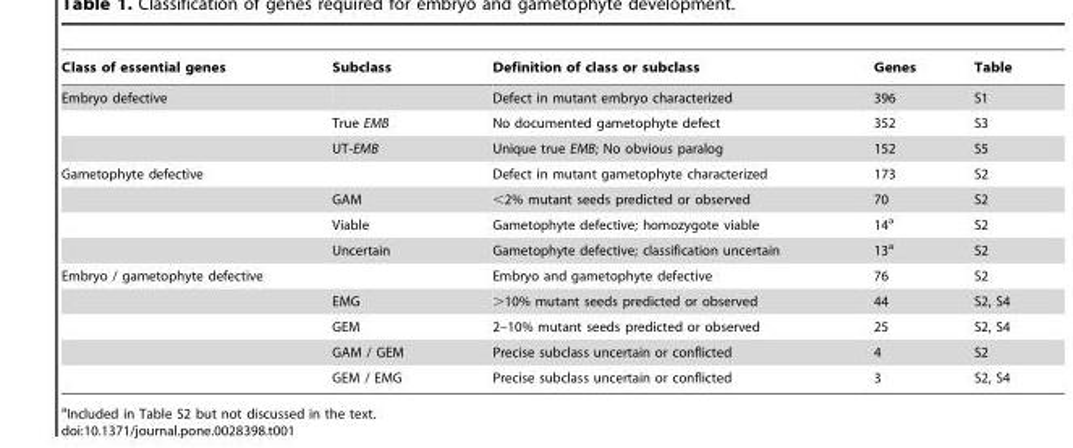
<table><thead><tr><td>Class of essential genes</td><td>Subclass</td><td>Definition of class or subclass</td><td>Genes</td><td>Table</td></tr></thead><tbody><tr><td rowspan="3">Embryo defective</td><td></td><td>Defect in mutant embryo characterized</td><td>396</td><td>S1</td></tr><tr><td>True EMB</td><td>No documented gametophyte defect</td><td>352</td><td>S3</td></tr><tr><td>UT-EMB</td><td>Unique true EMB; No obvious paralog</td><td>152</td><td>S5</td></tr><tr><td rowspan="4">Gametophyte defective</td><td></td><td>Defect in mutant gametophyte characterized</td><td>173</td><td>S2</td></tr><tr><td>GAM</td><td>&lt;2% mutant seeds predicted or observed</td><td>70</td><td>S2</td></tr><tr><td>Viable</td><td>Gametophyte defective; homozygote viable</td><td>14<sup>a</sup></td><td>S2</td></tr><tr><td>Uncertain</td><td>Gametophyte defective; classification uncertain</td><td>13<sup>a</sup></td><td>S2</td></tr><tr><td rowspan="5">Embryo / gametophyte defective</td><td></td><td>Embryo and gametophyte defective</td><td>76</td><td>S2</td></tr><tr><td>EMG</td><td>&gt;10% mutant seeds predicted or observed</td><td>44</td><td>S2, S4</td></tr><tr><td>GEM</td><td>2–10% mutant seeds predicted or observed</td><td>25</td><td>S2, S4</td></tr><tr><td>GAM / GEM</td><td>Precise subclass uncertain or conflicted</td><td>4</td><td>S2</td></tr><tr><td>GEM / EMG</td><td>Precise subclass uncertain or conflicted</td><td>3</td><td>S2, S4</td></tr></tbody></table>